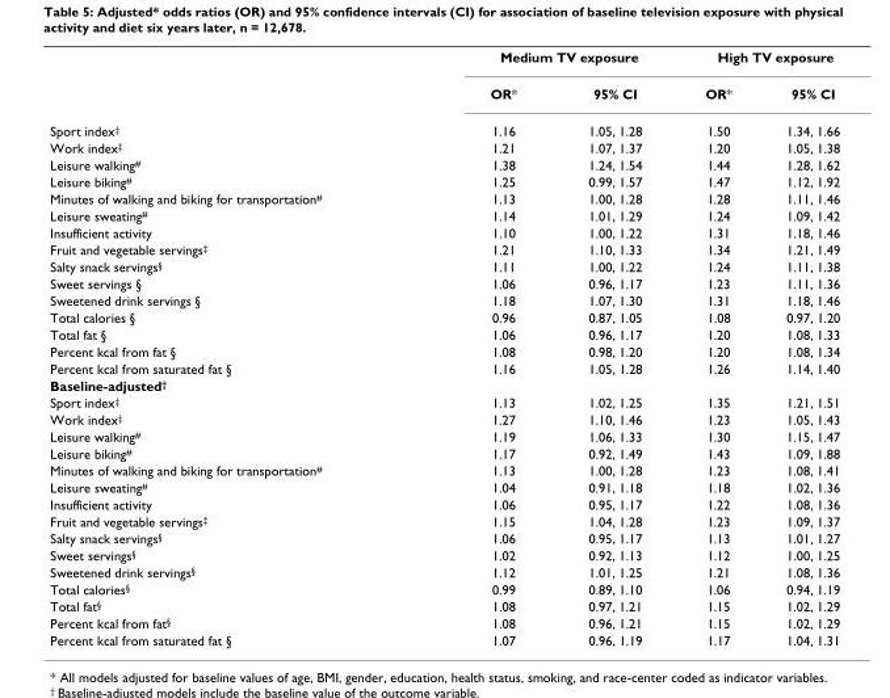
<table><thead><tr><td rowspan="2"></td><td colspan="2">Medium TV exposure</td><td colspan="2">High TV exposure</td></tr><tr><td>OR*</td><td>95% CI</td><td>OR*</td><td>95% CI</td></tr></thead><tbody><tr><td>Sport index<sup>‡</sup></td><td>1.16</td><td>1.05, 1.28</td><td>1.50</td><td>1.34, 1.66</td></tr><tr><td>Work index<sup>‡</sup></td><td>1.21</td><td>1.07, 1.37</td><td>1.20</td><td>1.05, 1.38</td></tr><tr><td>Leisure walking<sup>#</sup></td><td>1.38</td><td>1.24, 1.54</td><td>1.44</td><td>1.28, 1.62</td></tr><tr><td>Leisure biking<sup>#</sup></td><td>1.25</td><td>0.99, 1.57</td><td>1.47</td><td>1.12, 1.92</td></tr><tr><td>Minutes of walking and biking for transportation<sup>#</sup></td><td>1.13</td><td>1.00, 1.28</td><td>1.28</td><td>1.11, 1.46</td></tr><tr><td>Leisure sweating<sup>#</sup></td><td>1.14</td><td>1.01, 1.29</td><td>1.24</td><td>1.09, 1.42</td></tr><tr><td>Insufficient activity</td><td>1.10</td><td>1.00, 1.22</td><td>1.31</td><td>1.18, 1.46</td></tr><tr><td>Fruit and vegetable servings<sup>‡</sup></td><td>1.21</td><td>1.10, 1.33</td><td>1.34</td><td>1.21, 1.49</td></tr><tr><td>Salty snack servings<sup>§</sup></td><td>1.11</td><td>1.00, 1.22</td><td>1.24</td><td>1.11, 1.38</td></tr><tr><td>Sweet servings §</td><td>1.06</td><td>0.96, 1.17</td><td>1.23</td><td>1.11, 1.36</td></tr><tr><td>Sweetened drink servings §</td><td>1.18</td><td>1.07, 1.30</td><td>1.31</td><td>1.18, 1.46</td></tr><tr><td>Total calories §</td><td>0.96</td><td>0.87, 1.05</td><td>1.08</td><td>0.97, 1.20</td></tr><tr><td>Total fat §</td><td>1.06</td><td>0.96, 1.17</td><td>1.20</td><td>1.08, 1.33</td></tr><tr><td>Percent kcal from fat §</td><td>1.08</td><td>0.98, 1.20</td><td>1.20</td><td>1.08, 1.34</td></tr><tr><td>Percent kcal from saturated fat §</td><td>1.16</td><td>1.05, 1.28</td><td>1.26</td><td>1.14, 1.40</td></tr><tr><td colspan="5">Baseline-adjusted<sup>†</sup></td></tr><tr><td>Sport index<sup>‡</sup></td><td>1.13</td><td>1.02, 1.25</td><td>1.35</td><td>1.21, 1.51</td></tr><tr><td>Work index<sup>‡</sup></td><td>1.27</td><td>1.10, 1.46</td><td>1.23</td><td>1.05, 1.43</td></tr><tr><td>Leisure walking<sup>#</sup></td><td>1.19</td><td>1.06, 1.33</td><td>1.30</td><td>1.15, 1.47</td></tr><tr><td>Leisure biking<sup>#</sup></td><td>1.17</td><td>0.92, 1.49</td><td>1.43</td><td>1.09, 1.88</td></tr><tr><td>Minutes of walking and biking for transportation<sup>#</sup></td><td>1.13</td><td>1.00, 1.28</td><td>1.23</td><td>1.08, 1.41</td></tr><tr><td>Leisure sweating<sup>#</sup></td><td>1.04</td><td>0.91, 1.18</td><td>1.18</td><td>1.02, 1.36</td></tr><tr><td>Insufficient activity</td><td>1.06</td><td>0.95, 1.17</td><td>1.22</td><td>1.08, 1.36</td></tr><tr><td>Fruit and vegetable servings<sup>‡</sup></td><td>1.15</td><td>1.04, 1.28</td><td>1.23</td><td>1.09, 1.37</td></tr><tr><td>Salty snack servings<sup>§</sup></td><td>1.06</td><td>0.95, 1.17</td><td>1.13</td><td>1.01, 1.27</td></tr><tr><td>Sweet servings<sup>§</sup></td><td>1.02</td><td>0.92, 1.13</td><td>1.12</td><td>1.00, 1.25</td></tr><tr><td>Sweetened drink servings<sup>§</sup></td><td>1.12</td><td>1.01, 1.25</td><td>1.21</td><td>1.08, 1.36</td></tr><tr><td>Total calories<sup>§</sup></td><td>0.99</td><td>0.89, 1.10</td><td>1.06</td><td>0.94, 1.19</td></tr><tr><td>Total fat<sup>§</sup></td><td>1.08</td><td>0.97, 1.21</td><td>1.15</td><td>1.02, 1.29</td></tr><tr><td>Percent kcal from fat<sup>§</sup></td><td>1.08</td><td>0.96, 1.21</td><td>1.15</td><td>1.02, 1.29</td></tr><tr><td>Percent kcal from saturated fat §</td><td>1.07</td><td>0.96, 1.19</td><td>1.17</td><td>1.04, 1.31</td></tr></tbody></table>